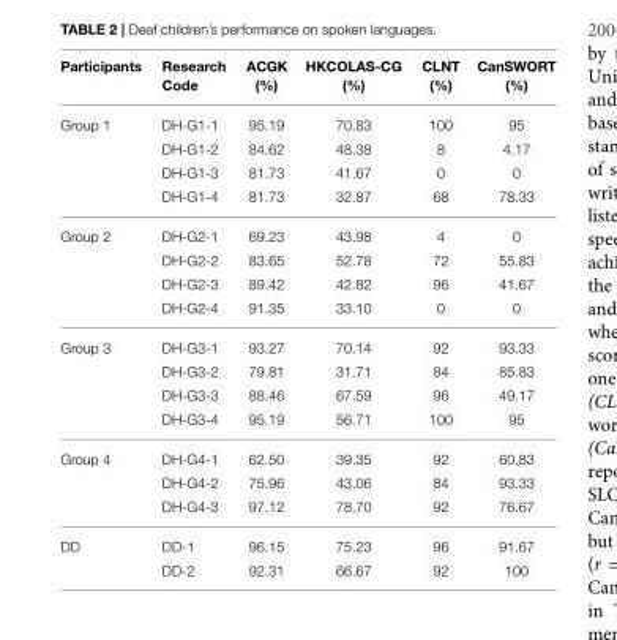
<table><thead><tr><td>Participants</td><td>Research Code</td><td>ACGK (%)</td><td>HKCOLAS-CG (%)</td><td>CLNT (%)</td><td>CanSWORT (%)</td></tr></thead><tbody><tr><td rowspan="4">Group 1</td><td>DH-G1-1</td><td>95.19</td><td>70.83</td><td>100</td><td>95</td></tr><tr><td>DH-G1-2</td><td>84.62</td><td>48.38</td><td>8</td><td>4.17</td></tr><tr><td>DH-G1-3</td><td>81.73</td><td>41.67</td><td>0</td><td>0</td></tr><tr><td>DH-G1-4</td><td>81.73</td><td>32.87</td><td>68</td><td>78.33</td></tr><tr><td rowspan="4">Group 2</td><td>DH-G2-1</td><td>69.23</td><td>43.98</td><td>4</td><td>0</td></tr><tr><td>DH-G2-2</td><td>83.65</td><td>52.78</td><td>72</td><td>55.83</td></tr><tr><td>DH-G2-3</td><td>89.42</td><td>42.82</td><td>96</td><td>41.67</td></tr><tr><td>DH-G2-4</td><td>91.35</td><td>33.10</td><td>0</td><td>0</td></tr><tr><td rowspan="4">Group 3</td><td>DH-G3-1</td><td>93.27</td><td>70.14</td><td>92</td><td>93.33</td></tr><tr><td>DH-G3-2</td><td>79.81</td><td>31.71</td><td>84</td><td>85.83</td></tr><tr><td>DH-G3-3</td><td>88.46</td><td>67.59</td><td>96</td><td>49.17</td></tr><tr><td>DH-G3-4</td><td>95.19</td><td>56.71</td><td>100</td><td>95</td></tr><tr><td rowspan="3">Group 4</td><td>DH-G4-1</td><td>62.50</td><td>39.35</td><td>92</td><td>60.83</td></tr><tr><td>DH-G4-2</td><td>75.96</td><td>43.06</td><td>84</td><td>93.33</td></tr><tr><td>DH-G4-3</td><td>97.12</td><td>78.70</td><td>92</td><td>76.67</td></tr><tr><td rowspan="2">DD</td><td>DD-1</td><td>96.15</td><td>75.23</td><td>96</td><td>91.67</td></tr><tr><td>DD-2</td><td>92.31</td><td>66.67</td><td>92</td><td>100</td></tr></tbody></table>